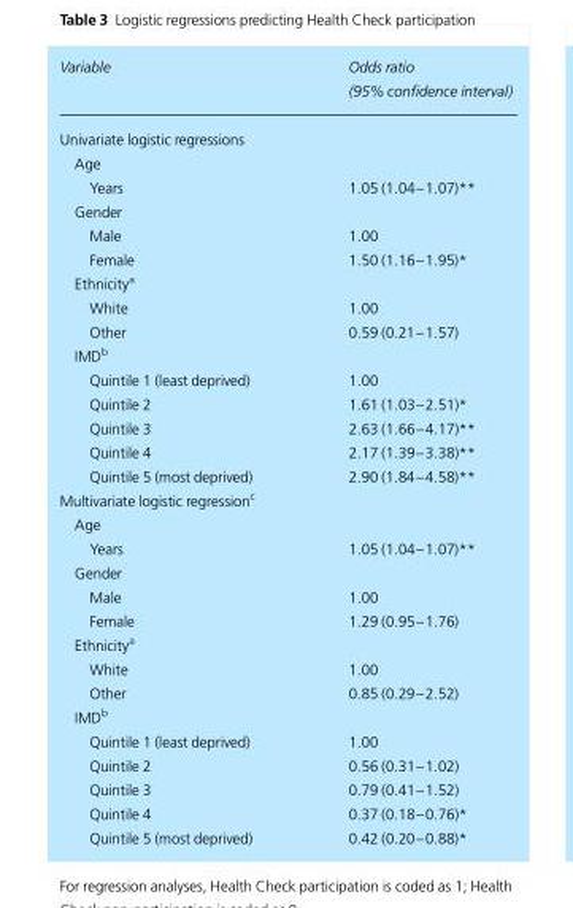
<table><thead><tr><td>Variable</td><td>Odds ratio (95% confidence interval)</td></tr></thead><tbody><tr><td colspan="2">Univariate logistic regressions</td></tr><tr><td colspan="2">Age</td></tr><tr><td>Years</td><td>1.05 (1.04–1.07)**</td></tr><tr><td colspan="2">Gender</td></tr><tr><td>Male</td><td>1.00</td></tr><tr><td>Female</td><td>1.50 (1.16–1.95)*</td></tr><tr><td colspan="2">Ethnicity<sup>a</sup></td></tr><tr><td>White</td><td>1.00</td></tr><tr><td>Other</td><td>0.59 (0.21–1.57)</td></tr><tr><td colspan="2">IMD<sup>b</sup></td></tr><tr><td>Quintile 1 (least deprived)</td><td>1.00</td></tr><tr><td>Quintile 2</td><td>1.61 (1.03–2.51)*</td></tr><tr><td>Quintile 3</td><td>2.63 (1.66–4.17)**</td></tr><tr><td>Quintile 4</td><td>2.17 (1.39–3.38)**</td></tr><tr><td>Quintile 5 (most deprived)</td><td>2.90 (1.84–4.58)**</td></tr><tr><td colspan="2">Multivariate logistic regression<sup>c</sup></td></tr><tr><td colspan="2">Age</td></tr><tr><td>Years</td><td>1.05 (1.04–1.07)**</td></tr><tr><td colspan="2">Gender</td></tr><tr><td>Male</td><td>1.00</td></tr><tr><td>Female</td><td>1.29 (0.95–1.76)</td></tr><tr><td colspan="2">Ethnicity<sup>a</sup></td></tr><tr><td>White</td><td>1.00</td></tr><tr><td>Other</td><td>0.85 (0.29–2.52)</td></tr><tr><td colspan="2">IMD<sup>b</sup></td></tr><tr><td>Quintile 1 (least deprived)</td><td>1.00</td></tr><tr><td>Quintile 2</td><td>0.56 (0.31–1.02)</td></tr><tr><td>Quintile 3</td><td>0.79 (0.41–1.52)</td></tr><tr><td>Quintile 4</td><td>0.37 (0.18–0.76)*</td></tr><tr><td>Quintile 5 (most deprived)</td><td>0.42 (0.20–0.88)*</td></tr></tbody></table>